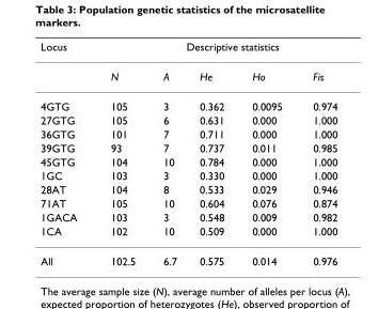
<table><thead><tr><td rowspan="2">Locus</td><td colspan="5">Descriptive statistics</td></tr><tr><td>N</td><td>A</td><td>He</td><td>Ho</td><td>Fis</td></tr></thead><tbody><tr><td>4GTG</td><td>105</td><td>3</td><td>0.362</td><td>0.0095</td><td>0.974</td></tr><tr><td>27GTG</td><td>105</td><td>6</td><td>0.631</td><td>0.000</td><td>1.000</td></tr><tr><td>36GTG</td><td>101</td><td>7</td><td>0.711</td><td>0.000</td><td>1.000</td></tr><tr><td>39GTG</td><td>93</td><td>7</td><td>0.737</td><td>0.011</td><td>0.985</td></tr><tr><td>45GTG</td><td>104</td><td>10</td><td>0.784</td><td>0.000</td><td>1.000</td></tr><tr><td>1GC</td><td>103</td><td>3</td><td>0.330</td><td>0.000</td><td>1.000</td></tr><tr><td>28AT</td><td>104</td><td>8</td><td>0.533</td><td>0.029</td><td>0.946</td></tr><tr><td>71AT</td><td>105</td><td>10</td><td>0.604</td><td>0.076</td><td>0.874</td></tr><tr><td>1GACA</td><td>103</td><td>3</td><td>0.548</td><td>0.009</td><td>0.982</td></tr><tr><td>1CA</td><td>102</td><td>10</td><td>0.509</td><td>0.000</td><td>1.000</td></tr><tr><td>All</td><td>102.5</td><td>6.7</td><td>0.575</td><td>0.014</td><td>0.976</td></tr></tbody></table>